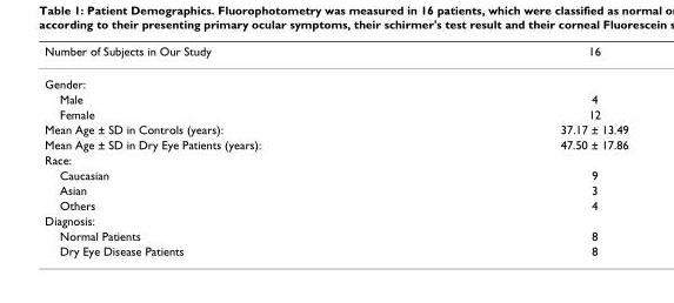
<table><thead><tr><td>Number of Subjects in Our Study</td><td>16</td></tr></thead><tbody><tr><td colspan="2">Gender:</td></tr><tr><td>Male</td><td>4</td></tr><tr><td>Female</td><td>12</td></tr><tr><td>Mean Age ± SD in Controls (years):</td><td>37.17 ± 13.49</td></tr><tr><td>Mean Age ± SD in Dry Eye Patients (years):</td><td>47.50 ± 17.86</td></tr><tr><td colspan="2">Race:</td></tr><tr><td>Caucasian</td><td>9</td></tr><tr><td>Asian</td><td>3</td></tr><tr><td>Others</td><td>4</td></tr><tr><td colspan="2">Diagnosis:</td></tr><tr><td>Normal Patients</td><td>8</td></tr><tr><td>Dry Eye Disease Patients</td><td>8</td></tr></tbody></table>